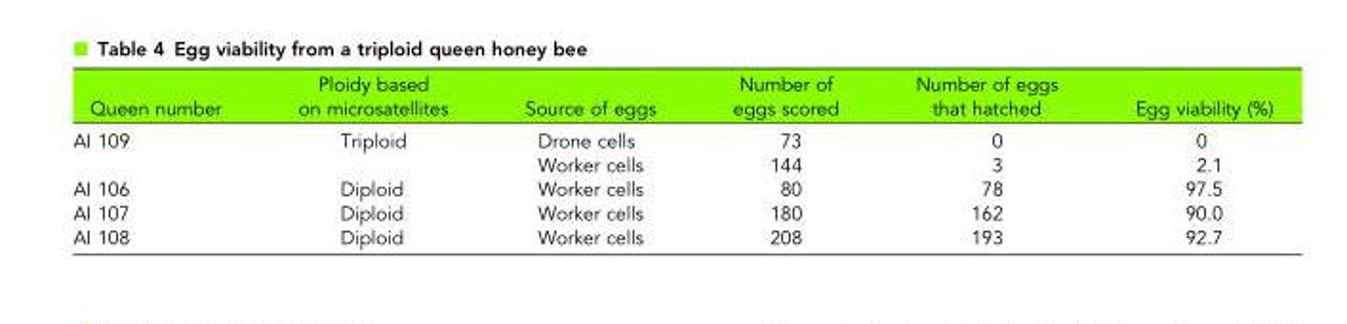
<table><thead><tr><td>Queen number</td><td>Ploidy based on microsatellites</td><td>Source of eggs</td><td>Number of eggs scored</td><td>Number of eggs that hatched</td><td>Egg viability (%)</td></tr></thead><tbody><tr><td rowspan="2">AI 109</td><td rowspan="2">Triploid</td><td>Drone cells</td><td>73</td><td>0</td><td>0</td></tr><tr><td>Worker cells</td><td>144</td><td>3</td><td>2.1</td></tr><tr><td>AI 106</td><td>Diploid</td><td>Worker cells</td><td>80</td><td>78</td><td>97.5</td></tr><tr><td>AI 107</td><td>Diploid</td><td>Worker cells</td><td>180</td><td>162</td><td>90.0</td></tr><tr><td>AI 108</td><td>Diploid</td><td>Worker cells</td><td>208</td><td>193</td><td>92.7</td></tr></tbody></table>